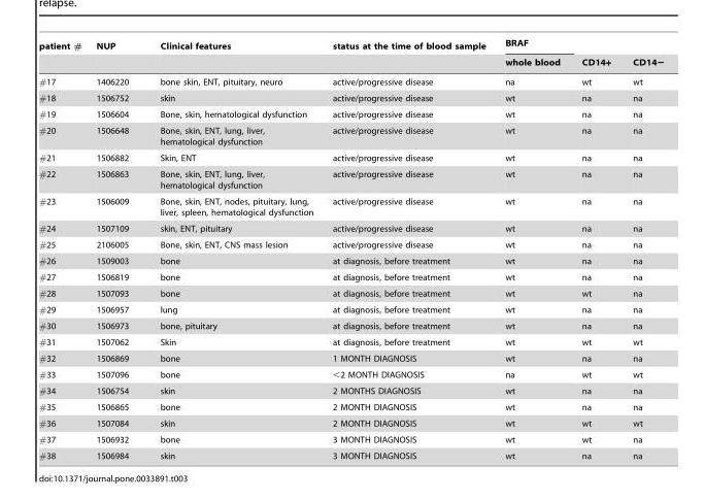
<table><thead><tr><td rowspan="2">patient #</td><td rowspan="2">NUP</td><td rowspan="2">Clinical features</td><td rowspan="2">status at the time of blood sample</td><td rowspan="2">BRAF whole blood</td><td rowspan="2">CD14+</td><td rowspan="2">CD14−</td></tr><tr></tr></thead><tbody><tr><td>#17</td><td>1406220</td><td>bone skin, ENT, pituitary, neuro</td><td>active/progressive disease</td><td>na</td><td>wt</td><td>wt</td></tr><tr><td>#18</td><td>1506752</td><td>skin</td><td>active/progressive disease</td><td>wt</td><td>na</td><td>na</td></tr><tr><td>#19</td><td>1506604</td><td>Bone, skin, hematological dysfunction</td><td>active/progressive disease</td><td>wt</td><td>na</td><td>na</td></tr><tr><td>#20</td><td>1506648</td><td>Bone, skin, ENT, lung, liver, hematological dysfunction</td><td>active/progressive disease</td><td>wt</td><td>na</td><td>na</td></tr><tr><td>#21</td><td>1506882</td><td>Skin, ENT</td><td>active/progressive disease</td><td>wt</td><td>na</td><td>na</td></tr><tr><td>#22</td><td>1506863</td><td>Bone, skin, ENT, lung, liver, hematological dysfunction</td><td>active/progressive disease</td><td>wt</td><td>na</td><td>na</td></tr><tr><td>#23</td><td>1506009</td><td>Bone, skin, ENT, nodes, pituitary, lung, liver, spleen, hematological dysfunction</td><td>active/progressive disease</td><td>wt</td><td>na</td><td>na</td></tr><tr><td>#24</td><td>1507109</td><td>skin, ENT, pituitary</td><td>active/progressive disease</td><td>wt</td><td>na</td><td>na</td></tr><tr><td>#25</td><td>2106005</td><td>Bone, skin, ENT, CNS mass lesion</td><td>active/progressive disease</td><td>wt</td><td>na</td><td>na</td></tr><tr><td>#26</td><td>1509003</td><td>bone</td><td>at diagnosis, before treatment</td><td>wt</td><td>na</td><td>na</td></tr><tr><td>#27</td><td>1506819</td><td>bone</td><td>at diagnosis, before treatment</td><td>wt</td><td>na</td><td>na</td></tr><tr><td>#28</td><td>1507093</td><td>bone</td><td>at diagnosis, before treatment</td><td>wt</td><td>wt</td><td>na</td></tr><tr><td>#29</td><td>1506957</td><td>lung</td><td>at diagnosis, before treatment</td><td>wt</td><td>na</td><td>na</td></tr><tr><td>#30</td><td>1506973</td><td>bone, pituitary</td><td>at diagnosis, before treatment</td><td>wt</td><td>na</td><td>na</td></tr><tr><td>#31</td><td>1507062</td><td>Skin</td><td>at diagnosis, before treatment</td><td>wt</td><td>wt</td><td>wt</td></tr><tr><td>#32</td><td>1506869</td><td>bone</td><td>1 MONTH DIAGNOSIS</td><td>wt</td><td>na</td><td>na</td></tr><tr><td>#33</td><td>1507096</td><td>bone</td><td>&lt;2 MONTH DIAGNOSIS</td><td>na</td><td>wt</td><td>wt</td></tr><tr><td>#34</td><td>1506754</td><td>skin</td><td>2 MONTHS DIAGNOSIS</td><td>wt</td><td>na</td><td>na</td></tr><tr><td>#35</td><td>1506865</td><td>bone</td><td>2 MONTH DIAGNOSIS</td><td>wt</td><td>na</td><td>na</td></tr><tr><td>#36</td><td>1507084</td><td>skin</td><td>2 MONTH DIAGNOSIS</td><td>wt</td><td>wt</td><td>wt</td></tr><tr><td>#37</td><td>1506932</td><td>bone</td><td>3 MONTH DIAGNOSIS</td><td>wt</td><td>wt</td><td>na</td></tr><tr><td>#38</td><td>1506984</td><td>skin</td><td>3 MONTH DIAGNOSIS</td><td>wt</td><td>na</td><td>na</td></tr></tbody></table>